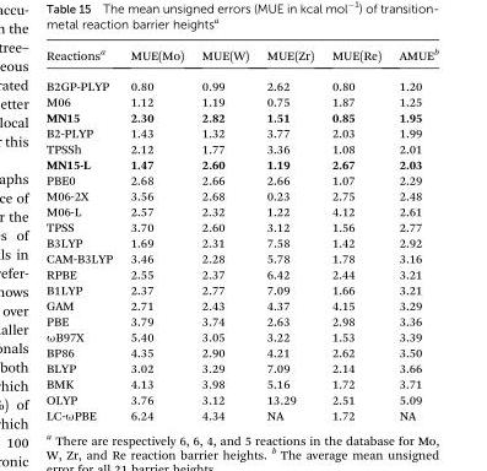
<table><thead><tr><td>Reactions<sup>a</sup></td><td>MUE(Mo)</td><td>MUE(W)</td><td>MUE(Zr)</td><td>MUE(Re)</td><td>AMUE<sup>b</sup></td></tr></thead><tbody><tr><td>B2GP-PLYP</td><td>0.80</td><td>0.99</td><td>2.62</td><td>0.80</td><td>1.20</td></tr><tr><td>M06</td><td>1.12</td><td>1.19</td><td>0.75</td><td>1.87</td><td>1.25</td></tr><tr><td>MN15</td><td>2.30</td><td>2.82</td><td>1.51</td><td>0.85</td><td>1.95</td></tr><tr><td>B2-PLYP</td><td>1.43</td><td>1.32</td><td>3.77</td><td>2.03</td><td>1.99</td></tr><tr><td>TPSSh</td><td>2.12</td><td>1.77</td><td>3.36</td><td>1.08</td><td>2.01</td></tr><tr><td>MN15-L</td><td>1.47</td><td>2.60</td><td>1.19</td><td>2.67</td><td>2.03</td></tr><tr><td>PBE0</td><td>2.68</td><td>2.66</td><td>2.66</td><td>1.07</td><td>2.29</td></tr><tr><td>M06-2X</td><td>3.56</td><td>2.68</td><td>0.23</td><td>2.75</td><td>2.48</td></tr><tr><td>M06-L</td><td>2.57</td><td>2.32</td><td>1.22</td><td>4.12</td><td>2.61</td></tr><tr><td>TPSS</td><td>3.70</td><td>2.60</td><td>3.12</td><td>1.56</td><td>2.77</td></tr><tr><td>B3LYP</td><td>1.69</td><td>2.31</td><td>7.58</td><td>1.42</td><td>2.92</td></tr><tr><td>CAM-B3LYP</td><td>3.46</td><td>2.28</td><td>5.78</td><td>1.78</td><td>3.16</td></tr><tr><td>RPBE</td><td>2.55</td><td>2.37</td><td>6.42</td><td>2.44</td><td>3.21</td></tr><tr><td>B1LYP</td><td>2.37</td><td>2.77</td><td>7.09</td><td>1.66</td><td>3.21</td></tr><tr><td>GAM</td><td>2.71</td><td>2.43</td><td>4.37</td><td>4.15</td><td>3.29</td></tr><tr><td>PBE</td><td>3.79</td><td>3.74</td><td>2.63</td><td>2.98</td><td>3.36</td></tr><tr><td>ωB97X</td><td>5.40</td><td>3.05</td><td>3.22</td><td>1.53</td><td>3.39</td></tr><tr><td>BP86</td><td>4.35</td><td>2.90</td><td>4.21</td><td>2.62</td><td>3.50</td></tr><tr><td>BLYP</td><td>3.02</td><td>3.29</td><td>7.09</td><td>2.14</td><td>3.66</td></tr><tr><td>BMK</td><td>4.13</td><td>3.98</td><td>5.16</td><td>1.72</td><td>3.71</td></tr><tr><td>OLYP</td><td>3.76</td><td>3.12</td><td>13.29</td><td>2.51</td><td>5.09</td></tr><tr><td>LC-ωPBE</td><td>6.24</td><td>4.34</td><td>NA</td><td>1.72</td><td>NA</td></tr></tbody></table>